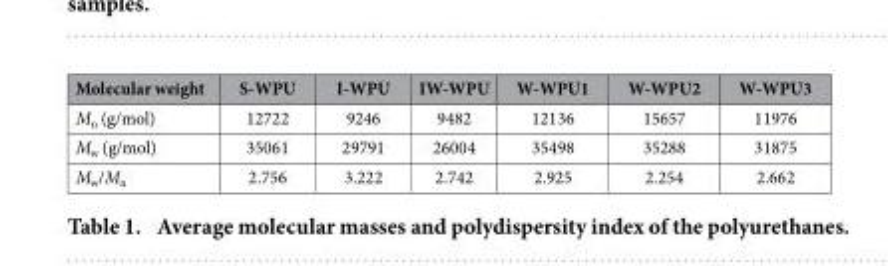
<table><thead><tr><td>Molecular weight</td><td>S-WPU</td><td>I-WPU</td><td>IW-WPU</td><td>W-WPU1</td><td>W-WPU2</td><td>W-WPU3</td></tr></thead><tbody><tr><td>M<sub>n</sub> (g/mol)</td><td>12722</td><td>9246</td><td>9482</td><td>12136</td><td>15657</td><td>11976</td></tr><tr><td>M<sub>w</sub> (g/mol)</td><td>35061</td><td>29791</td><td>26004</td><td>35498</td><td>35288</td><td>31875</td></tr><tr><td>M<sub>w</sub>/M<sub>n</sub></td><td>2.756</td><td>3.222</td><td>2.742</td><td>2.925</td><td>2.254</td><td>2.662</td></tr></tbody></table>